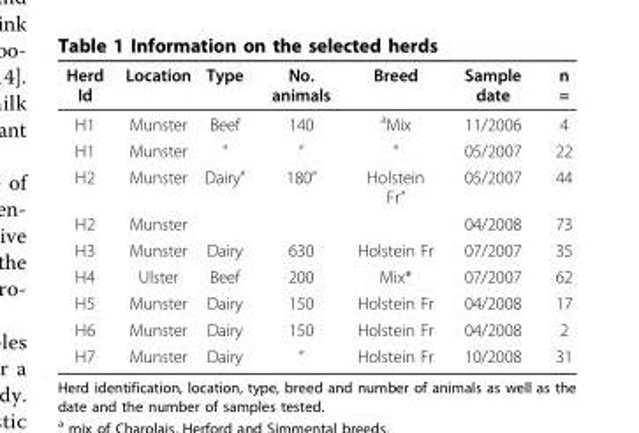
<table><thead><tr><td>Herd Id</td><td>Location</td><td>Type</td><td>No. animals</td><td>Breed</td><td>Sample date</td><td>n =</td></tr></thead><tbody><tr><td>H1</td><td>Munster</td><td>Beef</td><td>140</td><td><sup>a</sup>Mix</td><td>11/2006</td><td>4</td></tr><tr><td>H1</td><td>Munster</td><td>“</td><td>“</td><td>“</td><td>05/2007</td><td>22</td></tr><tr><td>H2</td><td>Munster</td><td>Dairy”</td><td>180”</td><td>Holstein Fr”</td><td>05/2007</td><td>44</td></tr><tr><td>H2</td><td>Munster</td><td></td><td></td><td></td><td>04/2008</td><td>73</td></tr><tr><td>H3</td><td>Munster</td><td>Dairy</td><td>630</td><td>Holstein Fr</td><td>07/2007</td><td>35</td></tr><tr><td>H4</td><td>Ulster</td><td>Beef</td><td>200</td><td>Mix*</td><td>07/2007</td><td>62</td></tr><tr><td>H5</td><td>Munster</td><td>Dairy</td><td>150</td><td>Holstein Fr</td><td>04/2008</td><td>17</td></tr><tr><td>H6</td><td>Munster</td><td>Dairy</td><td>150</td><td>Holstein Fr</td><td>04/2008</td><td>2</td></tr><tr><td>H7</td><td>Munster</td><td>Dairy</td><td>“</td><td>Holstein Fr</td><td>10/2008</td><td>31</td></tr></tbody></table>